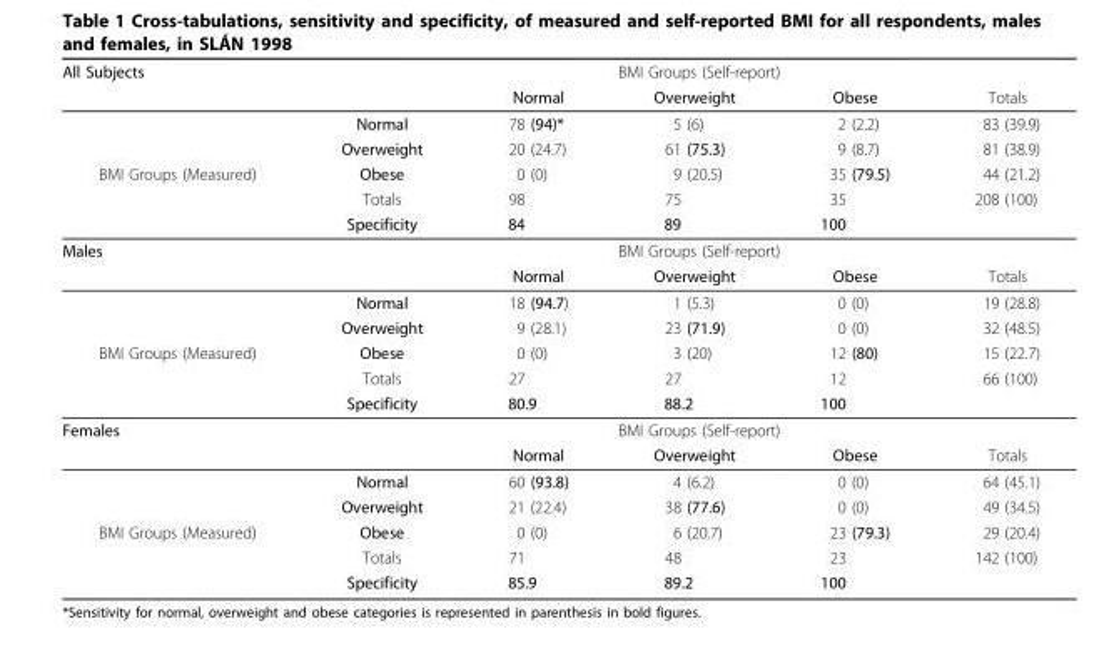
<table><tbody><tr><td rowspan="2">All Subjects</td><td></td><td colspan="3">BMI Groups (Self-report)</td><td></td></tr><tr><td></td><td>Normal</td><td>Overweight</td><td>Obese</td><td>Totals</td></tr><tr><td rowspan="5">BMI Groups (Measured)</td><td>Normal</td><td>78 (94)*</td><td>5 (6)</td><td>2 (2.2)</td><td>83 (39.9)</td></tr><tr><td>Overweight</td><td>20 (24.7)</td><td>61 (75.3)</td><td>9 (8.7)</td><td>81 (38.9)</td></tr><tr><td>Obese</td><td>0 (0)</td><td>9 (20.5)</td><td>35 (79.5)</td><td>44 (21.2)</td></tr><tr><td>Totals</td><td>98</td><td>75</td><td>35</td><td>208 (100)</td></tr><tr><td>Specificity</td><td>84</td><td>89</td><td>100</td><td></td></tr><tr><td rowspan="2">Males</td><td></td><td colspan="3">BMI Groups (Self-report)</td><td></td></tr><tr><td></td><td>Normal</td><td>Overweight</td><td>Obese</td><td>Totals</td></tr><tr><td rowspan="5">BMI Groups (Measured)</td><td>Normal</td><td>18 (94.7)</td><td>1 (5.3)</td><td>0 (0)</td><td>19 (28.8)</td></tr><tr><td>Overweight</td><td>9 (28.1)</td><td>23 (71.9)</td><td>0 (0)</td><td>32 (48.5)</td></tr><tr><td>Obese</td><td>0 (0)</td><td>3 (20)</td><td>12 (80)</td><td>15 (22.7)</td></tr><tr><td>Totals</td><td>27</td><td>27</td><td>12</td><td>66 (100)</td></tr><tr><td>Specificity</td><td>80.9</td><td>88.2</td><td>100</td><td></td></tr><tr><td rowspan="2">Females</td><td></td><td colspan="3">BMI Groups (Self-report)</td><td></td></tr><tr><td></td><td>Normal</td><td>Overweight</td><td>Obese</td><td>Totals</td></tr><tr><td rowspan="5">BMI Groups (Measured)</td><td>Normal</td><td>60 (93.8)</td><td>4 (6.2)</td><td>0 (0)</td><td>64 (45.1)</td></tr><tr><td>Overweight</td><td>21 (22.4)</td><td>38 (77.6)</td><td>0 (0)</td><td>49 (34.5)</td></tr><tr><td>Obese</td><td>0 (0)</td><td>6 (20.7)</td><td>23 (79.3)</td><td>29 (20.4)</td></tr><tr><td>Totals</td><td>71</td><td>48</td><td>23</td><td>142 (100)</td></tr><tr><td>Specificity</td><td>85.9</td><td>89.2</td><td>100</td><td></td></tr></tbody></table>